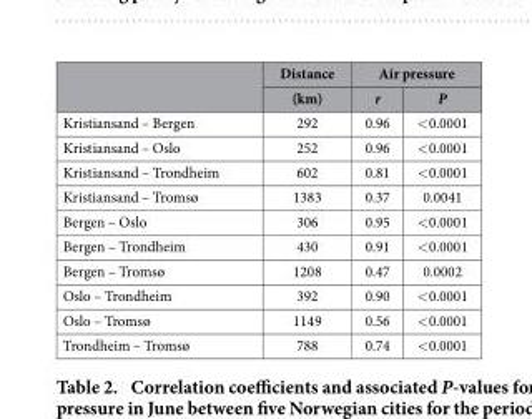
<table><thead><tr><td rowspan="2"></td><td rowspan="2">Distance (km)</td><td colspan="2">Air pressure</td></tr><tr><td>r</td><td>P</td></tr></thead><tbody><tr><td>Kristiansand – Bergen</td><td>292</td><td>0.96</td><td>&lt;0.0001</td></tr><tr><td>Kristiansand – Oslo</td><td>252</td><td>0.96</td><td>&lt;0.0001</td></tr><tr><td>Kristiansand – Trondheim</td><td>602</td><td>0.81</td><td>&lt;0.0001</td></tr><tr><td>Kristiansand – Tromsø</td><td>1383</td><td>0.37</td><td>0.0041</td></tr><tr><td>Bergen – Oslo</td><td>306</td><td>0.95</td><td>&lt;0.0001</td></tr><tr><td>Bergen – Trondheim</td><td>430</td><td>0.91</td><td>&lt;0.0001</td></tr><tr><td>Bergen – Tromsø</td><td>1208</td><td>0.47</td><td>0.0002</td></tr><tr><td>Oslo – Trondheim</td><td>392</td><td>0.90</td><td>&lt;0.0001</td></tr><tr><td>Oslo – Tromsø</td><td>1149</td><td>0.56</td><td>&lt;0.0001</td></tr><tr><td>Trondheim – Tromsø</td><td>788</td><td>0.74</td><td>&lt;0.0001</td></tr></tbody></table>